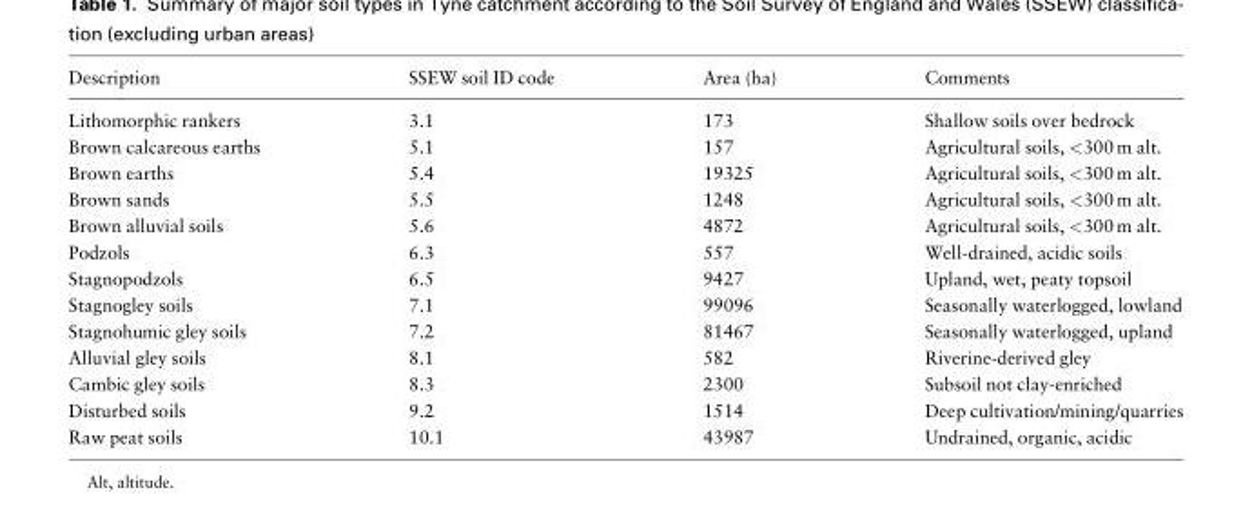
<table><thead><tr><td>Description</td><td>SSEW soil ID code</td><td>Area (ha)</td><td>Comments</td></tr></thead><tbody><tr><td>Lithomorphic rankers</td><td>3.1</td><td>173</td><td>Shallow soils over bedrock</td></tr><tr><td>Brown calcareous earths</td><td>5.1</td><td>157</td><td>Agricultural soils, &lt;300 m alt.</td></tr><tr><td>Brown earths</td><td>5.4</td><td>19325</td><td>Agricultural soils, &lt;300 m alt.</td></tr><tr><td>Brown sands</td><td>5.5</td><td>1248</td><td>Agricultural soils, &lt;300 m alt.</td></tr><tr><td>Brown alluvial soils</td><td>5.6</td><td>4872</td><td>Agricultural soils, &lt;300 m alt.</td></tr><tr><td>Podzols</td><td>6.3</td><td>557</td><td>Well-drained, acidic soils</td></tr><tr><td>Stagnopodzols</td><td>6.5</td><td>9427</td><td>Upland, wet, peaty topsoil</td></tr><tr><td>Stagnogley soils</td><td>7.1</td><td>99096</td><td>Seasonally waterlogged, lowland</td></tr><tr><td>Stagnohumic gley soils</td><td>7.2</td><td>81467</td><td>Seasonally waterlogged, upland</td></tr><tr><td>Alluvial gley soils</td><td>8.1</td><td>582</td><td>Riverine-derived gley</td></tr><tr><td>Cambic gley soils</td><td>8.3</td><td>2300</td><td>Subsoil not clay-enriched</td></tr><tr><td>Disturbed soils</td><td>9.2</td><td>1514</td><td>Deep cultivation/mining/quarries</td></tr><tr><td>Raw peat soils</td><td>10.1</td><td>43987</td><td>Undrained, organic, acidic</td></tr></tbody></table>